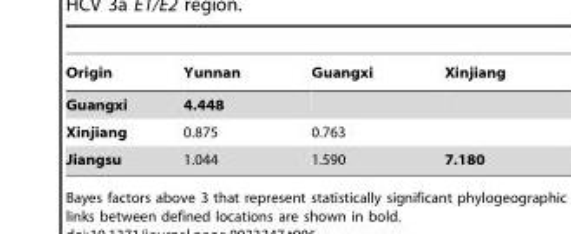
<table><thead><tr><td>Origin</td><td>Yunnan</td><td>Guangxi</td><td>Xinjiang</td></tr></thead><tbody><tr><td>Guangxi</td><td>4.448</td><td></td><td></td></tr><tr><td>Xinjiang</td><td>0.875</td><td>0.763</td><td></td></tr><tr><td>Jiangsu</td><td>1.044</td><td>1.590</td><td>7.180</td></tr></tbody></table>